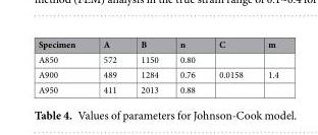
<table><thead><tr><td>Specimen</td><td>A</td><td>B</td><td>n</td><td>C</td><td>m</td></tr></thead><tbody><tr><td>A850</td><td>572</td><td>1150</td><td>0.80</td><td></td><td></td></tr><tr><td>A900</td><td>489</td><td>1284</td><td>0.76</td><td>0.0158</td><td>1.4</td></tr><tr><td>A950</td><td>411</td><td>2013</td><td>0.88</td><td></td><td></td></tr></tbody></table>